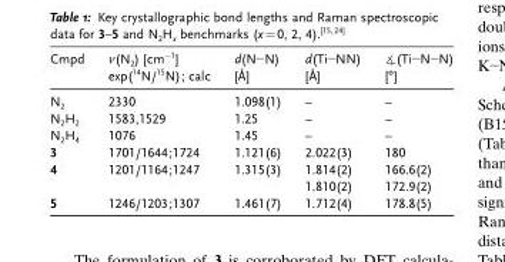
<table><thead><tr><td>Cmpd</td><td>ν(N<sub>2</sub>) [cm<sup>−1</sup>] exp(<sup>14</sup>N/<sup>15</sup>N); calc</td><td>d(N−N) [Å]</td><td>d(Ti−NN) [Å]</td><td>∡(Ti−N−N) [°]</td></tr></thead><tbody><tr><td>N<sub>2</sub></td><td>2330</td><td>1.098(1)</td><td>–</td><td>–</td></tr><tr><td>N<sub>2</sub>H<sub>2</sub></td><td>1583,1529</td><td>1.25</td><td>–</td><td>–</td></tr><tr><td>N<sub>2</sub>H<sub>4</sub></td><td>1076</td><td>1.45</td><td>–</td><td>–</td></tr><tr><td>3</td><td>1701/1644;1724</td><td>1.121(6)</td><td>2.022(3)</td><td>180</td></tr><tr><td>4</td><td>1201/1164;1247</td><td>1.315(3)</td><td>1.814(2) 1.810(2)</td><td>166.6(2) 172.9(2)</td></tr><tr><td>5</td><td>1246/1203;1307</td><td>1.461(7)</td><td>1.712(4)</td><td>178.8(5)</td></tr></tbody></table>